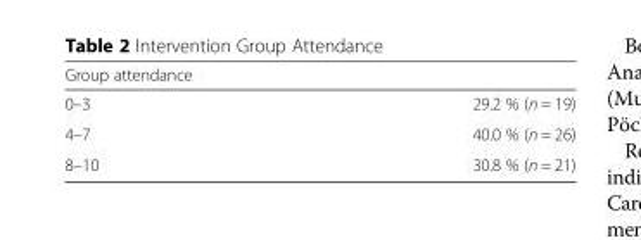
<table><thead><tr><td>Group attendance</td><td></td></tr></thead><tbody><tr><td>0–3</td><td>29.2 % (n = 19)</td></tr><tr><td>4–7</td><td>40.0 % (n = 26)</td></tr><tr><td>8–10</td><td>30.8 % (n = 21)</td></tr></tbody></table>